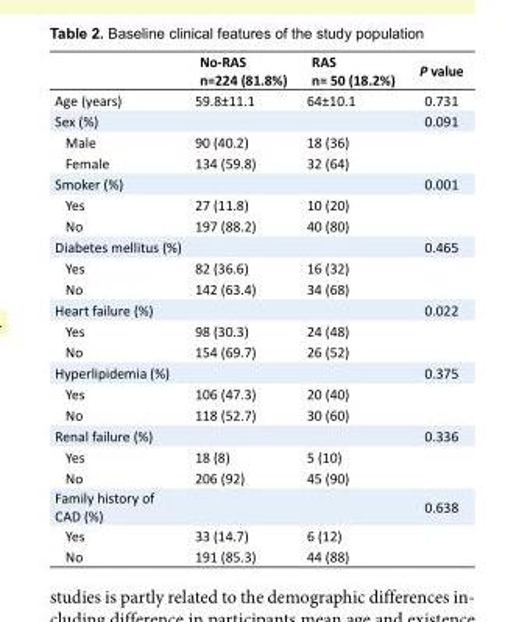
<table><thead><tr><td></td><td>No-RAS n=224 (81.8%)</td><td>RAS n= 50 (18.2%)</td><td>P value</td></tr></thead><tbody><tr><td>Age (years)</td><td>59.8±11.1</td><td>64±10.1</td><td>0.731</td></tr><tr><td>Sex (%)</td><td></td><td></td><td>0.091</td></tr><tr><td>Male</td><td>90 (40.2)</td><td>18 (36)</td><td></td></tr><tr><td>Female</td><td>134 (59.8)</td><td>32 (64)</td><td></td></tr><tr><td>Smoker (%)</td><td></td><td></td><td>0.001</td></tr><tr><td>Yes</td><td>27 (11.8)</td><td>10 (20)</td><td></td></tr><tr><td>No</td><td>197 (88.2)</td><td>40 (80)</td><td></td></tr><tr><td>Diabetes mellitus (%)</td><td></td><td></td><td>0.465</td></tr><tr><td>Yes</td><td>82 (36.6)</td><td>16 (32)</td><td></td></tr><tr><td>No</td><td>142 (63.4)</td><td>34 (68)</td><td></td></tr><tr><td>Heart failure (%)</td><td></td><td></td><td>0.022</td></tr><tr><td>Yes</td><td>98 (30.3)</td><td>24 (48)</td><td></td></tr><tr><td>No</td><td>154 (69.7)</td><td>26 (52)</td><td></td></tr><tr><td>Hyperlipidemia (%)</td><td></td><td></td><td>0.375</td></tr><tr><td>Yes</td><td>106 (47.3)</td><td>20 (40)</td><td></td></tr><tr><td>No</td><td>118 (52.7)</td><td>30 (60)</td><td></td></tr><tr><td>Renal failure (%)</td><td></td><td></td><td>0.336</td></tr><tr><td>Yes</td><td>18 (8)</td><td>5 (10)</td><td></td></tr><tr><td>No</td><td>206 (92)</td><td>45 (90)</td><td></td></tr><tr><td>Family history of CAD (%)</td><td></td><td></td><td>0.638</td></tr><tr><td>Yes</td><td>33 (14.7)</td><td>6 (12)</td><td></td></tr><tr><td>No</td><td>191 (85.3)</td><td>44 (88)</td><td></td></tr></tbody></table>